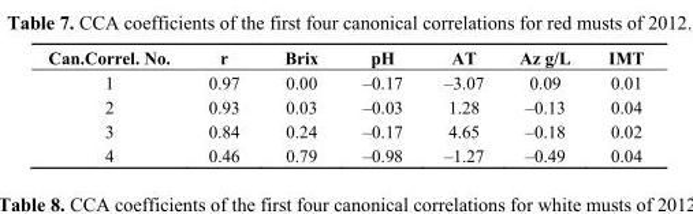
<table><thead><tr><td>Can.Correl. No.</td><td>r</td><td>Brix</td><td>pH</td><td>AT</td><td>Az g/L</td><td>IMT</td></tr></thead><tbody><tr><td>1</td><td>0.97</td><td>0.00</td><td>‒0.17</td><td>‒3.07</td><td>0.09</td><td>0.01</td></tr><tr><td>2</td><td>0.93</td><td>0.03</td><td>‒0.03</td><td>1.28</td><td>‒0.13</td><td>0.04</td></tr><tr><td>3</td><td>0.84</td><td>0.24</td><td>‒0.17</td><td>4.65</td><td>‒0.18</td><td>0.02</td></tr><tr><td>4</td><td>0.46</td><td>0.79</td><td>‒0.98</td><td>‒1.27</td><td>‒0.49</td><td>0.04</td></tr></tbody></table>